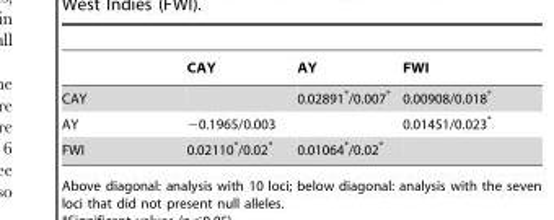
<table><thead><tr><td></td><td>CAY</td><td>AY</td><td>FWI</td></tr></thead><tbody><tr><td>CAY</td><td></td><td>0.02891*/0.007*</td><td>0.00908/0.018*</td></tr><tr><td>AY</td><td>−0.1965/0.003</td><td></td><td>0.01451/0.023*</td></tr><tr><td>FWI</td><td>0.02110*/0.02*</td><td>0.01064*/0.02*</td><td></td></tr></tbody></table>